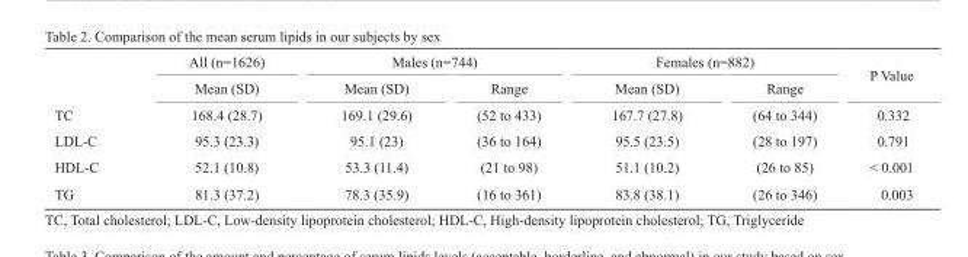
<table><thead><tr><td rowspan="2"></td><td rowspan="2">All (n=1626) Mean (SD)</td><td colspan="2">Males (n=744)</td><td colspan="2">Females (n=882)</td><td rowspan="2">P Value</td></tr><tr><td>Mean (SD)</td><td>Range</td><td>Mean (SD)</td><td>Range</td></tr></thead><tbody><tr><td>TC</td><td>168.4 (28.7)</td><td>169.1 (29.6)</td><td>(52 to 433)</td><td>167.7 (27.8)</td><td>(64 to 344)</td><td>0.332</td></tr><tr><td>LDL-C</td><td>95.3 (23.3)</td><td>95.1 (23)</td><td>(36 to 164)</td><td>95.5 (23.5)</td><td>(28 to 197)</td><td>0.791</td></tr><tr><td>HDL-C</td><td>52.1 (10.8)</td><td>53.3 (11.4)</td><td>(21 to 98)</td><td>51.1 (10.2)</td><td>(26 to 85)</td><td>&lt; 0.001</td></tr><tr><td>TG</td><td>81.3 (37.2)</td><td>78.3 (35.9)</td><td>(16 to 361)</td><td>83.8 (38.1)</td><td>(26 to 346)</td><td>0.003</td></tr></tbody></table>